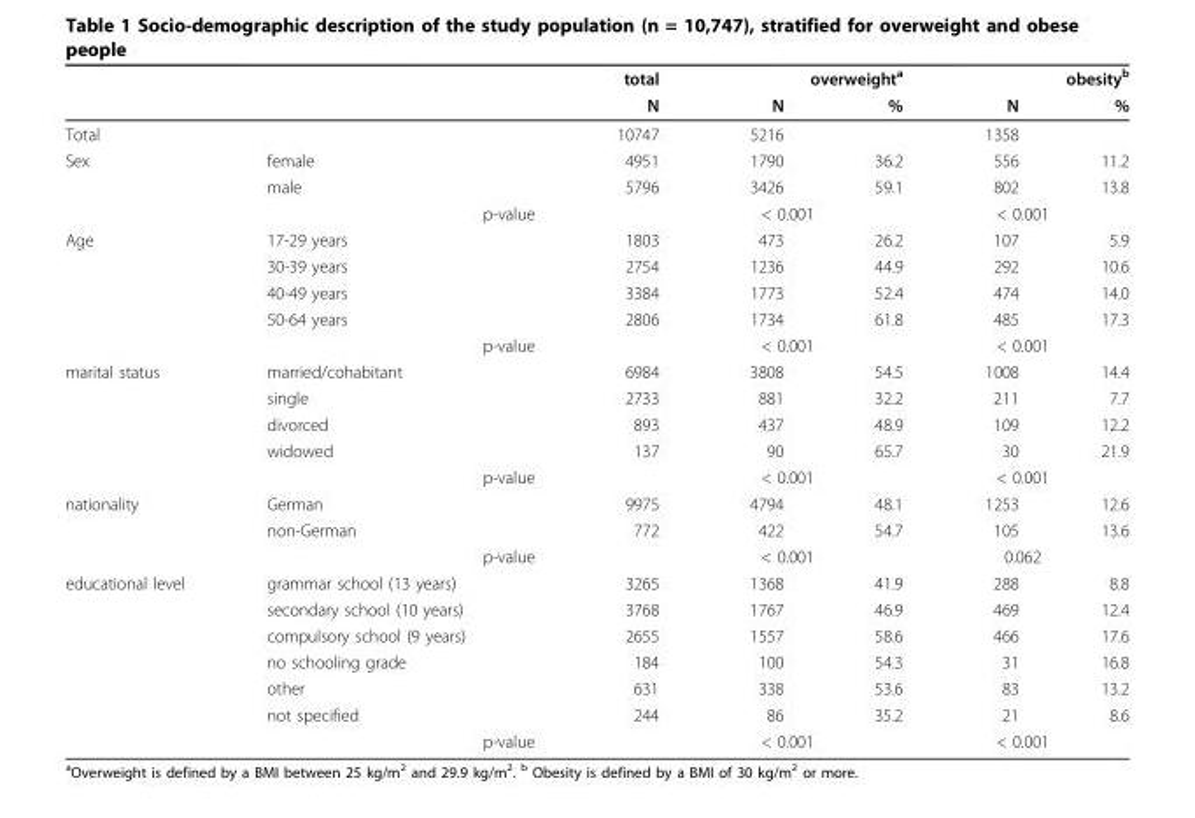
<table><thead><tr><td rowspan="2"></td><td rowspan="2"></td><td rowspan="2">total N</td><td colspan="2">overweight<sup>a</sup></td><td colspan="2">obesity<sup>b</sup></td></tr><tr><td>N</td><td>%</td><td>N</td><td>%</td></tr></thead><tbody><tr><td>Total</td><td></td><td>10747</td><td>5216</td><td></td><td>1358</td><td></td></tr><tr><td rowspan="3">Sex</td><td>female</td><td>4951</td><td>1790</td><td>36.2</td><td>556</td><td>11.2</td></tr><tr><td>male</td><td>5796</td><td>3426</td><td>59.1</td><td>802</td><td>13.8</td></tr><tr><td>p-value</td><td></td><td colspan="2">&lt; 0.001</td><td colspan="2">&lt; 0.001</td></tr><tr><td rowspan="5">Age</td><td>17-29 years</td><td>1803</td><td>473</td><td>26.2</td><td>107</td><td>5.9</td></tr><tr><td>30-39 years</td><td>2754</td><td>1236</td><td>44.9</td><td>292</td><td>10.6</td></tr><tr><td>40-49 years</td><td>3384</td><td>1773</td><td>52.4</td><td>474</td><td>14.0</td></tr><tr><td>50-64 years</td><td>2806</td><td>1734</td><td>61.8</td><td>485</td><td>17.3</td></tr><tr><td>p-value</td><td></td><td colspan="2">&lt; 0.001</td><td colspan="2">&lt; 0.001</td></tr><tr><td rowspan="5">marital status</td><td>married/cohabitant</td><td>6984</td><td>3808</td><td>54.5</td><td>1008</td><td>14.4</td></tr><tr><td>single</td><td>2733</td><td>881</td><td>32.2</td><td>211</td><td>7.7</td></tr><tr><td>divorced</td><td>893</td><td>437</td><td>48.9</td><td>109</td><td>12.2</td></tr><tr><td>widowed</td><td>137</td><td>90</td><td>65.7</td><td>30</td><td>21.9</td></tr><tr><td>p-value</td><td></td><td colspan="2">&lt; 0.001</td><td colspan="2">&lt; 0.001</td></tr><tr><td rowspan="3">nationality</td><td>German</td><td>9975</td><td>4794</td><td>48.1</td><td>1253</td><td>12.6</td></tr><tr><td>non-German</td><td>772</td><td>422</td><td>54.7</td><td>105</td><td>13.6</td></tr><tr><td>p-value</td><td></td><td colspan="2">&lt; 0.001</td><td colspan="2">0.062</td></tr><tr><td rowspan="7">educational level</td><td>grammar school (13 years)</td><td>3265</td><td>1368</td><td>41.9</td><td>288</td><td>8.8</td></tr><tr><td>secondary school (10 years)</td><td>3768</td><td>1767</td><td>46.9</td><td>469</td><td>12.4</td></tr><tr><td>compulsory school (9 years)</td><td>2655</td><td>1557</td><td>58.6</td><td>466</td><td>17.6</td></tr><tr><td>no schooling grade</td><td>184</td><td>100</td><td>54.3</td><td>31</td><td>16.8</td></tr><tr><td>other</td><td>631</td><td>338</td><td>53.6</td><td>83</td><td>13.2</td></tr><tr><td>not specified</td><td>244</td><td>86</td><td>35.2</td><td>21</td><td>8.6</td></tr><tr><td>p-value</td><td></td><td colspan="2">&lt; 0.001</td><td colspan="2">&lt; 0.001</td></tr></tbody></table>